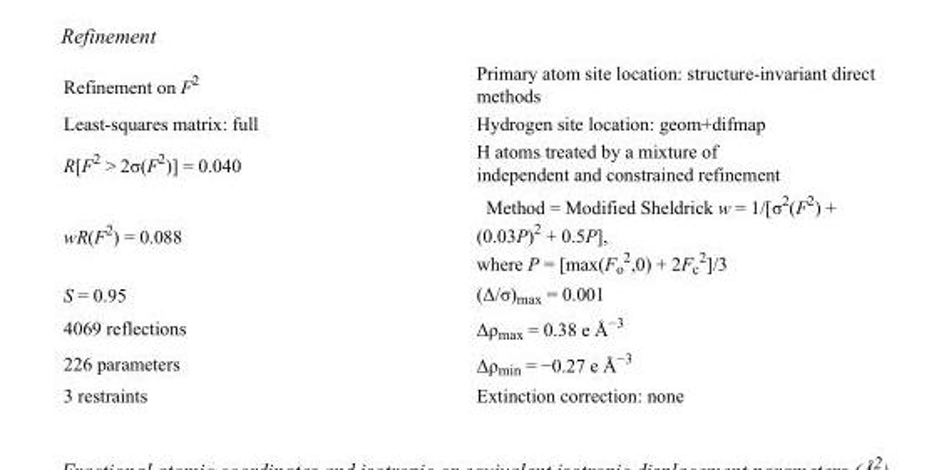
<table><tbody><tr><td>Refinement on F<sup>2</sup></td><td>Primary atom site location: structure-invariant direct methods</td></tr><tr><td>Least-squares matrix: full</td><td>Hydrogen site location: geom+difmap</td></tr><tr><td>R[F<sup>2</sup> &gt; 2σ(F<sup>2</sup>)] = 0.040</td><td>H atoms treated by a mixture of independent and constrained refinement</td></tr><tr><td>wR(F<sup>2</sup>) = 0.088</td><td>Method = Modified Sheldrick w = 1/[σ<sup>2</sup>(F<sup>2</sup>) + (0.03P)<sup>2</sup> + 0.5P], where P = [max(F<sub>o</sub> <sup>2</sup>,0) + 2F<sub>c</sub> <sup>2</sup>]/3</td></tr><tr><td>S = 0.95</td><td>(Δ/σ)<sub>max</sub> = 0.001</td></tr><tr><td>4069 reflections</td><td>Δρ<sub>max</sub> = 0.38 e Å<sup>−3</sup></td></tr><tr><td>226 parameters</td><td>Δρ<sub>min</sub> = −0.27 e Å<sup>−3</sup></td></tr><tr><td>3 restraints</td><td>Extinction correction: none</td></tr></tbody></table>